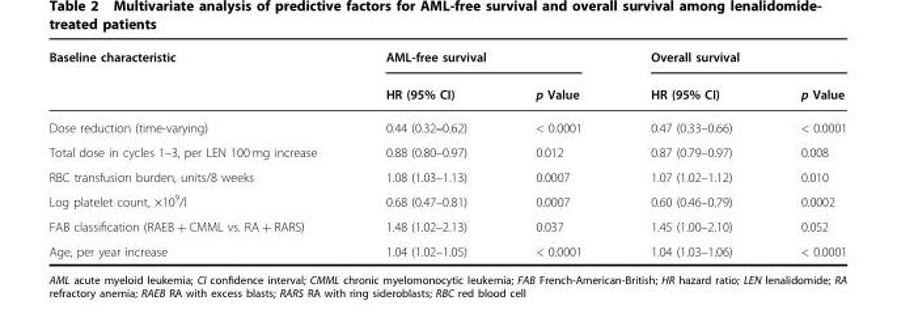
<table><thead><tr><td rowspan="2">Baseline characteristic</td><td colspan="2">AML-free survival</td><td colspan="2">Overall survival</td></tr><tr><td>HR (95% CI)</td><td>p Value</td><td>HR (95% CI)</td><td>p Value</td></tr></thead><tbody><tr><td>Dose reduction (time-varying)</td><td>0.44 (0.32‒0.62)</td><td>&lt; 0.0001</td><td>0.47 (0.33–0.66)</td><td>&lt; 0.0001</td></tr><tr><td>Total dose in cycles 1–3, per LEN 100 mg increase</td><td>0.88 (0.80–0.97)</td><td>0.012</td><td>0.87 (0.79–0.97)</td><td>0.008</td></tr><tr><td>RBC transfusion burden, units/8 weeks</td><td>1.08 (1.03–1.13)</td><td>0.0007</td><td>1.07 (1.02–1.12)</td><td>0.010</td></tr><tr><td>Log platelet count, ×10<sup>9</sup>/l</td><td>0.68 (0.47–0.81)</td><td>0.0007</td><td>0.60 (0.46–0.79)</td><td>0.0002</td></tr><tr><td>FAB classification (RAEB + CMML vs. RA + RARS)</td><td>1.48 (1.02–2.13)</td><td>0.037</td><td>1.45 (1.00–2.10)</td><td>0.052</td></tr><tr><td>Age, per year increase</td><td>1.04 (1.02–1.05)</td><td>&lt; 0.0001</td><td>1.04 (1.03–1.06)</td><td>&lt; 0.0001</td></tr></tbody></table>